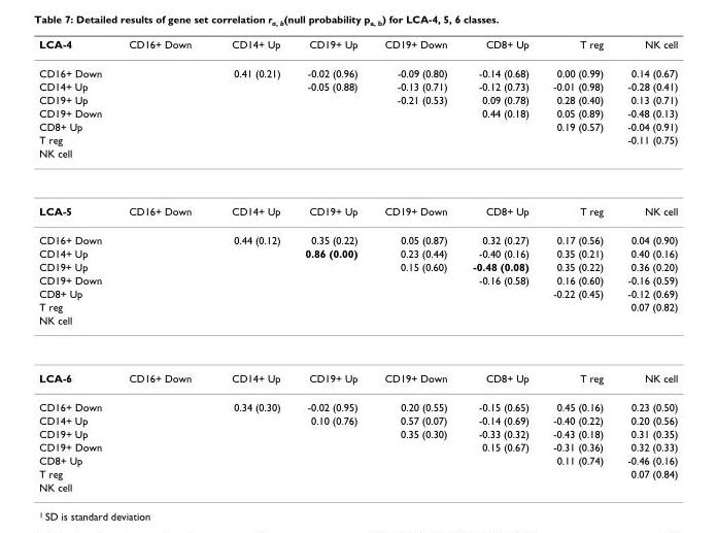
<table><thead><tr><td>LCA-4</td><td>CD16+ Down</td><td>CD14+ Up</td><td>CD19+ Up</td><td>CD19+ Down</td><td>CD8+ Up</td><td>T reg</td><td>NK cell</td></tr></thead><tbody><tr><td>CD16+ Down</td><td></td><td>0.41 (0.21)</td><td>-0.02 (0.96)</td><td>-0.09 (0.80)</td><td>-0.14 (0.68)</td><td>0.00 (0.99)</td><td>0.14 (0.67)</td></tr><tr><td>CD14+ Up</td><td></td><td></td><td>-0.05 (0.88)</td><td>-0.13 (0.71)</td><td>-0.12 (0.73)</td><td>-0.01 (0.98)</td><td>-0.28 (0.41)</td></tr><tr><td>CD19+ Up</td><td></td><td></td><td></td><td>-0.21 (0.53)</td><td>0.09 (0.78)</td><td>0.28 (0.40)</td><td>0.13 (0.71)</td></tr><tr><td>CD19+ Down</td><td></td><td></td><td></td><td></td><td>0.44 (0.18)</td><td>0.05 (0.89)</td><td>-0.48 (0.13)</td></tr><tr><td>CD8+ Up</td><td></td><td></td><td></td><td></td><td></td><td>0.19 (0.57)</td><td>-0.04 (0.91)</td></tr><tr><td>T reg</td><td></td><td></td><td></td><td></td><td></td><td></td><td>-0.11 (0.75)</td></tr><tr><td colspan="8">NK cell</td></tr><tr><td>LCA-5</td><td>CD16+ Down</td><td>CD14+ Up</td><td>CD19+ Up</td><td>CD19+ Down</td><td>CD8+ Up</td><td>T reg</td><td>NK cell</td></tr><tr><td>CD16+ Down</td><td></td><td>0.44 (0.12)</td><td>0.35 (0.22)</td><td>0.05 (0.87)</td><td>0.32 (0.27)</td><td>0.17 (0.56)</td><td>0.04 (0.90)</td></tr><tr><td>CD14+ Up</td><td></td><td></td><td>0.86 (0.00)</td><td>0.23 (0.44)</td><td>-0.40 (0.16)</td><td>0.35 (0.21)</td><td>0.40 (0.16)</td></tr><tr><td>CD19+ Up</td><td></td><td></td><td></td><td>0.15 (0.60)</td><td>-0.48 (0.08)</td><td>0.35 (0.22)</td><td>0.36 (0.20)</td></tr><tr><td>CD19+ Down</td><td></td><td></td><td></td><td></td><td>-0.16 (0.58)</td><td>0.16 (0.60)</td><td>-0.16 (0.59)</td></tr><tr><td>CD8+ Up</td><td></td><td></td><td></td><td></td><td></td><td>-0.22 (0.45)</td><td>-0.12 (0.69)</td></tr><tr><td>T reg</td><td></td><td></td><td></td><td></td><td></td><td></td><td>0.07 (0.82)</td></tr><tr><td colspan="8">NK cell</td></tr><tr><td>LCA-6</td><td>CD16+ Down</td><td>CD14+ Up</td><td>CD19+ Up</td><td>CD19+ Down</td><td>CD8+ Up</td><td>T reg</td><td>NK cell</td></tr><tr><td>CD16+ Down</td><td></td><td>0.34 (0.30)</td><td>-0.02 (0.95)</td><td>0.20 (0.55)</td><td>-0.15 (0.65)</td><td>0.45 (0.16)</td><td>0.23 (0.50)</td></tr><tr><td>CD14+ Up</td><td></td><td></td><td>0.10 (0.76)</td><td>0.57 (0.07)</td><td>-0.14 (0.69)</td><td>-0.40 (0.22)</td><td>0.20 (0.56)</td></tr><tr><td>CD19+ Up</td><td></td><td></td><td></td><td>0.35 (0.30)</td><td>-0.33 (0.32)</td><td>-0.43 (0.18)</td><td>0.31 (0.35)</td></tr><tr><td>CD19+ Down</td><td></td><td></td><td></td><td></td><td>0.15 (0.67)</td><td>-0.31 (0.36)</td><td>0.32 (0.33)</td></tr><tr><td>CD8+ Up</td><td></td><td></td><td></td><td></td><td></td><td>0.11 (0.74)</td><td>-0.46 (0.16)</td></tr><tr><td>T reg</td><td></td><td></td><td></td><td></td><td></td><td></td><td>0.07 (0.84)</td></tr><tr><td>NK cell</td><td></td><td></td><td></td><td></td><td></td><td></td><td></td></tr></tbody></table>